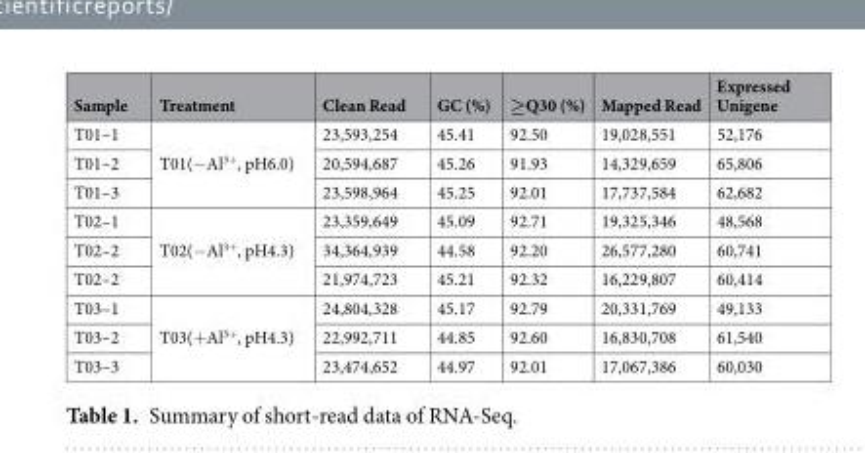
<table><thead><tr><td>Sample</td><td>Treatment</td><td>Clean Read</td><td>GC (%)</td><td>≥Q30 (%)</td><td>Mapped Read</td><td>Expressed Unigene</td></tr></thead><tbody><tr><td>T01–1</td><td rowspan="3">T01(−Al<sup>3+</sup>, pH6.0)</td><td>23,593,254</td><td>45.41</td><td>92.50</td><td>19,028,551</td><td>52,176</td></tr><tr><td>T01–2</td><td>20,594,687</td><td>45.26</td><td>91.93</td><td>14,329,659</td><td>65,806</td></tr><tr><td>T01–3</td><td>23,598,964</td><td>45.25</td><td>92.01</td><td>17,737,584</td><td>62,682</td></tr><tr><td>T02–1</td><td rowspan="3">T02(−Al<sup>3+</sup>, pH4.3)</td><td>23,359,649</td><td>45.09</td><td>92.71</td><td>19,325,346</td><td>48,568</td></tr><tr><td>T02–2</td><td>34,364,939</td><td>44.58</td><td>92.20</td><td>26,577,280</td><td>60,741</td></tr><tr><td>T02–2</td><td>21,974,723</td><td>45.21</td><td>92.32</td><td>16,229,807</td><td>60,414</td></tr><tr><td>T03–1</td><td rowspan="3">T03(+Al<sup>3+</sup>, pH4.3)</td><td>24,804,328</td><td>45.17</td><td>92.79</td><td>20,331,769</td><td>49,133</td></tr><tr><td>T03–2</td><td>22,992,711</td><td>44.85</td><td>92.60</td><td>16,830,708</td><td>61,540</td></tr><tr><td>T03–3</td><td>23,474,652</td><td>44.97</td><td>92.01</td><td>17,067,386</td><td>60,030</td></tr></tbody></table>